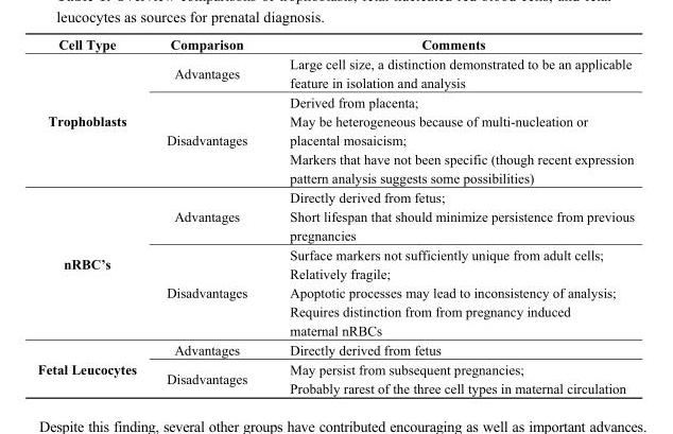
<table><thead><tr><td>Cell Type</td><td>Comparison</td><td>Comments</td></tr></thead><tbody><tr><td rowspan="2">Trophoblasts</td><td>Advantages</td><td>Large cell size, a distinction demonstrated to be an applicable feature in isolation and analysis</td></tr><tr><td>Disadvantages</td><td>Derived from placenta; May be heterogeneous because of multi-nucleation or placental mosaicism; Markers that have not been specific (though recent expression pattern analysis suggests some possibilities)</td></tr><tr><td rowspan="2">nRBC’s</td><td>Advantages</td><td>Directly derived from fetus; Short lifespan that should minimize persistence from previous pregnancies</td></tr><tr><td>Disadvantages</td><td>Surface markers not sufficiently unique from adult cells; Relatively fragile; Apoptotic processes may lead to inconsistency of analysis; Requires distinction from from pregnancy induced maternal nRBCs</td></tr><tr><td rowspan="2">Fetal Leucocytes</td><td>Advantages</td><td>Directly derived from fetus</td></tr><tr><td>Disadvantages</td><td>May persist from subsequent pregnancies; Probably rarest of the three cell types in maternal circulation</td></tr></tbody></table>